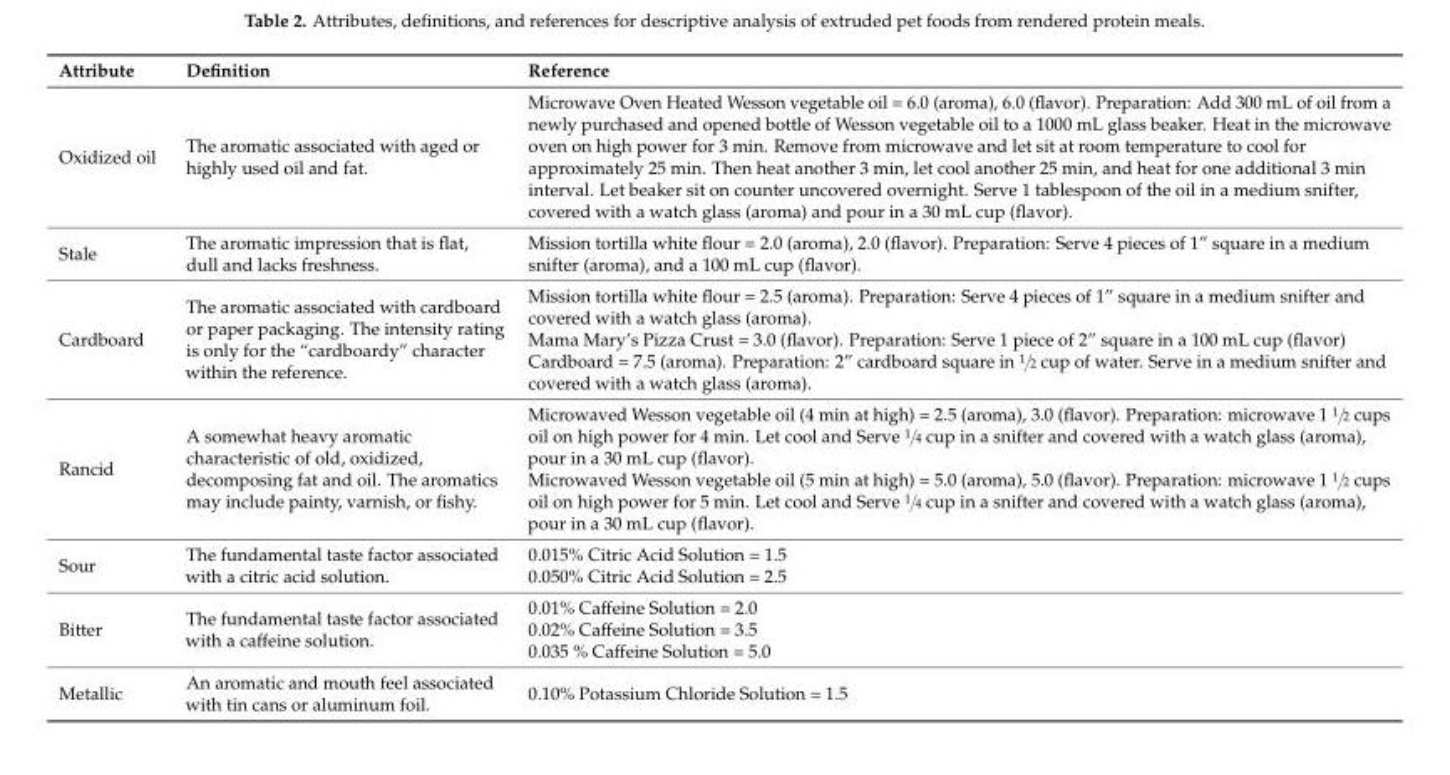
<table><thead><tr><td>Attribute</td><td>Definition</td><td>Reference</td></tr></thead><tbody><tr><td>Oxidized oil</td><td>The aromatic associated with aged or highly used oil and fat.</td><td>Microwave Oven Heated Wesson vegetable oil = 6.0 (aroma), 6.0 (flavor). Preparation: Add 300 mL of oil from a newly purchased and opened bottle of Wesson vegetable oil to a 1000 mL glass beaker. Heat in the microwave oven on high power for 3 min. Remove from microwave and let sit at room temperature to cool for approximately 25 min. Then heat another 3 min, let cool another 25 min, and heat for one additional 3 min interval. Let beaker sit on counter uncovered overnight. Serve 1 tablespoon of the oil in a medium snifter, covered with a watch glass (aroma) and pour in a 30 mL cup (flavor).</td></tr><tr><td>Stale</td><td>The aromatic impression that is flat, dull and lacks freshness.</td><td>Mission tortilla white flour = 2.0 (aroma), 2.0 (flavor). Preparation: Serve 4 pieces of 1” square in a medium snifter (aroma), and a 100 mL cup (flavor).</td></tr><tr><td>Cardboard</td><td>The aromatic associated with cardboard or paper packaging. The intensity rating is only for the “cardboardy” character within the reference.</td><td>Mission tortilla white flour = 2.5 (aroma). Preparation: Serve 4 pieces of 1” square in a medium snifter and covered with a watch glass (aroma). Mama Mary’s Pizza Crust = 3.0 (flavor). Preparation: Serve 1 piece of 2” square in a 100 mL cup (flavor) Cardboard = 7.5 (aroma). Preparation: 2” cardboard square in 1{2 cup of water. Serve in a medium snifter and covered with a watch glass (aroma).</td></tr><tr><td>Rancid</td><td>A somewhat heavy aromatic characteristic of old, oxidized, decomposing fat and oil. The aromatics may include painty, varnish, or fishy.</td><td>Microwaved Wesson vegetable oil (4 min at high) = 2.5 (aroma), 3.0 (flavor). Preparation: microwave 1 1{2 cups oil on high power for 4 min. Let cool and Serve 1{4 cup in a snifter and covered with a watch glass (aroma), pour in a 30 mL cup (flavor). Microwaved Wesson vegetable oil (5 min at high) = 5.0 (aroma), 5.0 (flavor). Preparation: microwave 1 1{2 cups oil on high power for 5 min. Let cool and Serve 1{4 cup in a snifter and covered with a watch glass (aroma), pour in a 30 mL cup (flavor).</td></tr><tr><td>Sour</td><td>The fundamental taste factor associated with a citric acid solution.</td><td>0.015% Citric Acid Solution = 1.5 0.050% Citric Acid Solution = 2.5</td></tr><tr><td>Bitter</td><td>The fundamental taste factor associated with a caffeine solution.</td><td>0.01% Caffeine Solution = 2.0 0.02% Caffeine Solution = 3.5 0.035 % Caffeine Solution = 5.0</td></tr><tr><td>Metallic</td><td>An aromatic and mouth feel associated with tin cans or aluminum foil.</td><td>0.10% Potassium Chloride Solution = 1.5</td></tr></tbody></table>